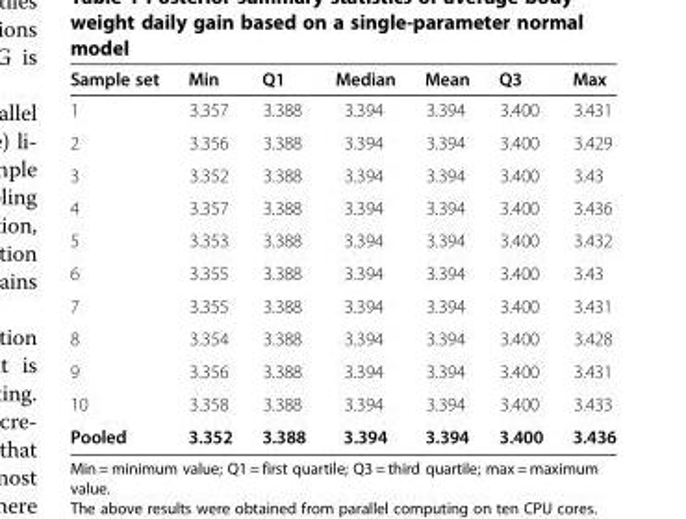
<table><thead><tr><td>Sample set</td><td>Min</td><td>Q1</td><td>Median</td><td>Mean</td><td>Q3</td><td>Max</td></tr></thead><tbody><tr><td>1</td><td>3.357</td><td>3.388</td><td>3.394</td><td>3.394</td><td>3.400</td><td>3.431</td></tr><tr><td>2</td><td>3.356</td><td>3.388</td><td>3.394</td><td>3.394</td><td>3.400</td><td>3.429</td></tr><tr><td>3</td><td>3.352</td><td>3.388</td><td>3.394</td><td>3.394</td><td>3.400</td><td>3.43</td></tr><tr><td>4</td><td>3.357</td><td>3.388</td><td>3.394</td><td>3.394</td><td>3.400</td><td>3.436</td></tr><tr><td>5</td><td>3.353</td><td>3.388</td><td>3.394</td><td>3.394</td><td>3.400</td><td>3.432</td></tr><tr><td>6</td><td>3.355</td><td>3.388</td><td>3.394</td><td>3.394</td><td>3.400</td><td>3.43</td></tr><tr><td>7</td><td>3.355</td><td>3.388</td><td>3.394</td><td>3.394</td><td>3.400</td><td>3.431</td></tr><tr><td>8</td><td>3.354</td><td>3.388</td><td>3.394</td><td>3.394</td><td>3.400</td><td>3.428</td></tr><tr><td>9</td><td>3.356</td><td>3.388</td><td>3.394</td><td>3.394</td><td>3.400</td><td>3.431</td></tr><tr><td>10</td><td>3.358</td><td>3.388</td><td>3.394</td><td>3.394</td><td>3.400</td><td>3.433</td></tr><tr><td>Pooled</td><td>3.352</td><td>3.388</td><td>3.394</td><td>3.394</td><td>3.400</td><td>3.436</td></tr></tbody></table>